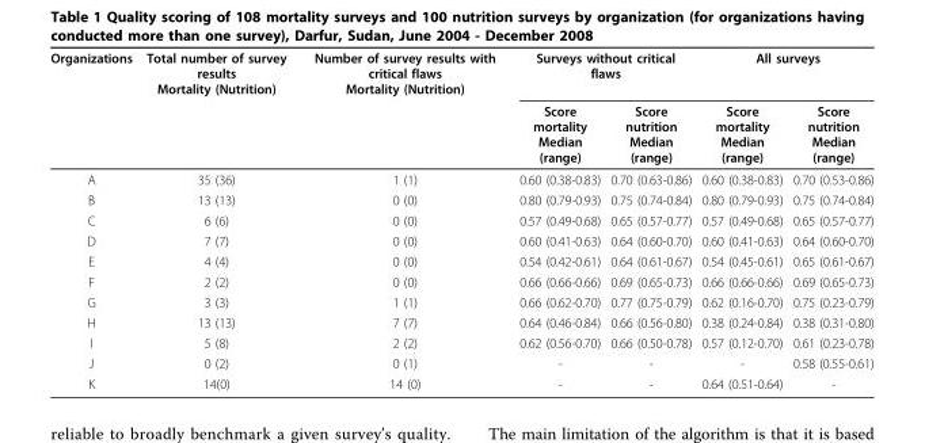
<table><thead><tr><td rowspan="2">Organizations</td><td rowspan="2">Total number of survey results Mortality (Nutrition)</td><td rowspan="2">Number of survey results with critical flaws Mortality (Nutrition)</td><td colspan="2">Surveys without critical flaws</td><td colspan="2">All surveys</td></tr><tr><td>Score mortality Median (range)</td><td>Score nutrition Median (range)</td><td>Score mortality Median (range)</td><td>Score nutrition Median (range)</td></tr></thead><tbody><tr><td>A</td><td>35 (36)</td><td>1 (1)</td><td>0.60 (0.38-0.83)</td><td>0.70 (0.63-0.86)</td><td>0.60 (0.38-0.83)</td><td>0.70 (0.53-0.86)</td></tr><tr><td>B</td><td>13 (13)</td><td>0 (0)</td><td>0.80 (0.79-0.93)</td><td>0.75 (0.74-0.84)</td><td>0.80 (0.79-0.93)</td><td>0.75 (0.74-0.84)</td></tr><tr><td>C</td><td>6 (6)</td><td>0 (0)</td><td>0.57 (0.49-0.68)</td><td>0.65 (0.57-0.77)</td><td>0.57 (0.49-0.68)</td><td>0.65 (0.57-0.77)</td></tr><tr><td>D</td><td>7 (7)</td><td>0 (0)</td><td>0.60 (0.41-0.63)</td><td>0.64 (0.60-0.70)</td><td>0.60 (0.41-0.63)</td><td>0.64 (0.60-0.70)</td></tr><tr><td>E</td><td>4 (4)</td><td>0 (0)</td><td>0.54 (0.42-0.61)</td><td>0.64 (0.61-0.67)</td><td>0.54 (0.45-0.61)</td><td>0.65 (0.61-0.67)</td></tr><tr><td>F</td><td>2 (2)</td><td>0 (0)</td><td>0.66 (0.66-0.66)</td><td>0.69 (0.65-0.73)</td><td>0.66 (0.66-0.66)</td><td>0.69 (0.65-0.73)</td></tr><tr><td>G</td><td>3 (3)</td><td>1 (1)</td><td>0.66 (0.62-0.70)</td><td>0.77 (0.75-0.79)</td><td>0.62 (0.16-0.70)</td><td>0.75 (0.23-0.79)</td></tr><tr><td>H</td><td>13 (13)</td><td>7 (7)</td><td>0.64 (0.46-0.84)</td><td>0.66 (0.56-0.80)</td><td>0.38 (0.24-0.84)</td><td>0.38 (0.31-0.80)</td></tr><tr><td>I</td><td>5 (8)</td><td>2 (2)</td><td>0.62 (0.56-0.70)</td><td>0.66 (0.50-0.78)</td><td>0.57 (0.12-0.70)</td><td>0.61 (0.23-0.78)</td></tr><tr><td>J</td><td>0 (2)</td><td>0 (1)</td><td>-</td><td>-</td><td>-</td><td>0.58 (0.55-0.61)</td></tr><tr><td>K</td><td>14(0)</td><td>14 (0)</td><td>-</td><td>-</td><td>0.64 (0.51-0.64)</td><td>-</td></tr></tbody></table>